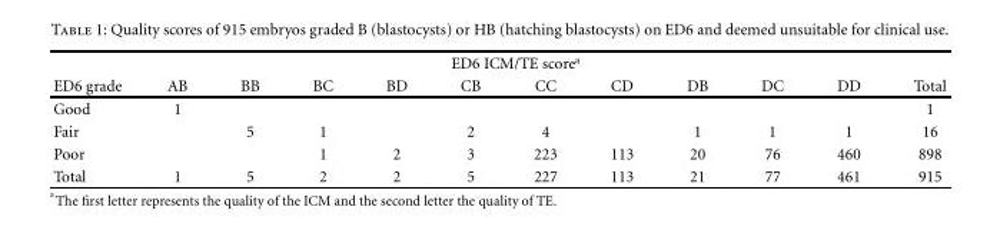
<table><thead><tr><td rowspan="2">ED6 grade</td><td colspan="10">ED6 ICM/TE score<sup>a</sup></td><td rowspan="2">Total</td></tr><tr><td>AB</td><td>BB</td><td>BC</td><td>BD</td><td>CB</td><td>CC</td><td>CD</td><td>DB</td><td>DC</td><td>DD</td></tr></thead><tbody><tr><td>Good</td><td>1</td><td></td><td></td><td></td><td></td><td></td><td></td><td></td><td></td><td></td><td>1</td></tr><tr><td>Fair</td><td></td><td>5</td><td>1</td><td></td><td>2</td><td>4</td><td></td><td>1</td><td>1</td><td>1</td><td>16</td></tr><tr><td>Poor</td><td></td><td></td><td>1</td><td>2</td><td>3</td><td>223</td><td>113</td><td>20</td><td>76</td><td>460</td><td>898</td></tr><tr><td>Total</td><td>1</td><td>5</td><td>2</td><td>2</td><td>5</td><td>227</td><td>113</td><td>21</td><td>77</td><td>461</td><td>915</td></tr></tbody></table>